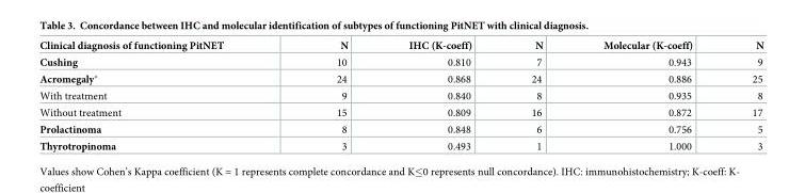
<table><thead><tr><td>Clinical diagnosis of functioning PitNET</td><td>N</td><td>IHC (K-coeff)</td><td>N</td><td>Molecular (K-coeff)</td><td>N</td></tr></thead><tbody><tr><td>Cushing</td><td>10</td><td>0.810</td><td>7</td><td>0.943</td><td>9</td></tr><tr><td>Acromegaly*</td><td>24</td><td>0.868</td><td>24</td><td>0.886</td><td>25</td></tr><tr><td>With treatment</td><td>9</td><td>0.840</td><td>8</td><td>0.935</td><td>8</td></tr><tr><td>Without treatment</td><td>15</td><td>0.809</td><td>16</td><td>0.872</td><td>17</td></tr><tr><td>Prolactinoma</td><td>8</td><td>0.848</td><td>6</td><td>0.756</td><td>5</td></tr><tr><td>Thyrotropinoma</td><td>3</td><td>0.493</td><td>1</td><td>1.000</td><td>3</td></tr></tbody></table>